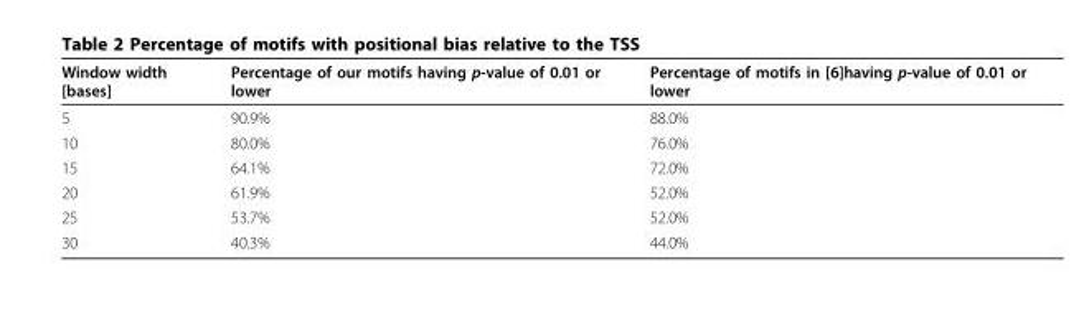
<table><thead><tr><td>Window width [bases]</td><td>Percentage of our motifs having p-value of 0.01 or lower</td><td>Percentage of motifs in [6]having p-value of 0.01 or lower</td></tr></thead><tbody><tr><td>5</td><td>90.9%</td><td>88.0%</td></tr><tr><td>10</td><td>80.0%</td><td>76.0%</td></tr><tr><td>15</td><td>64.1%</td><td>72.0%</td></tr><tr><td>20</td><td>61.9%</td><td>52.0%</td></tr><tr><td>25</td><td>53.7%</td><td>52.0%</td></tr><tr><td>30</td><td>40.3%</td><td>44.0%</td></tr></tbody></table>